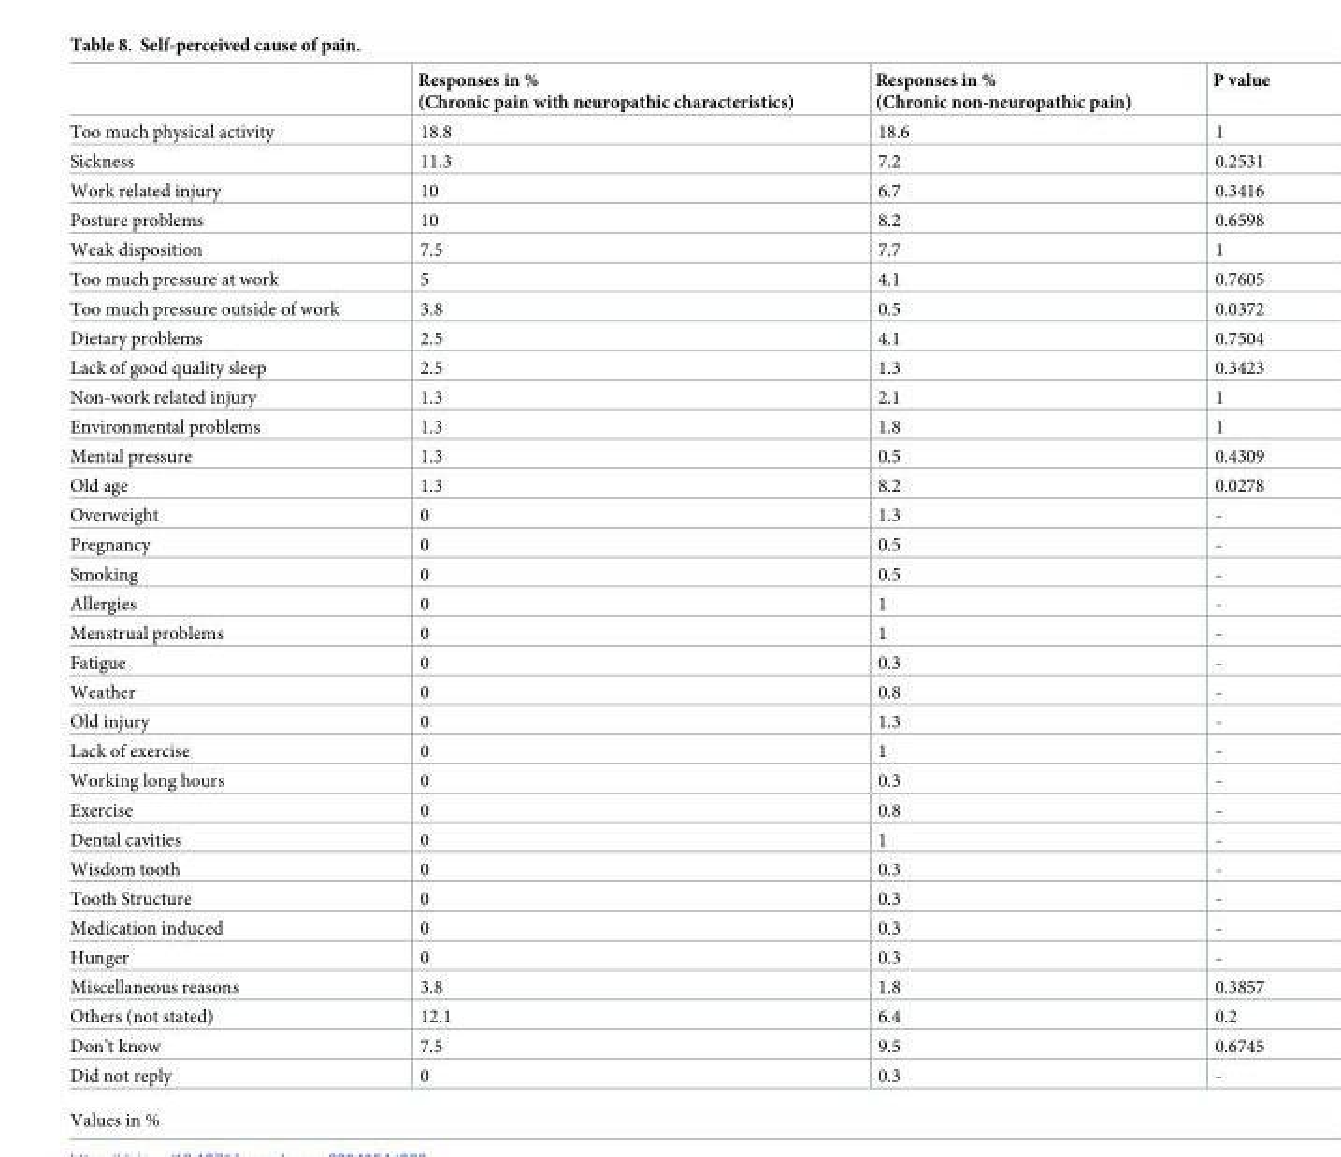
<table><thead><tr><td></td><td>Responses in % (Chronic pain with neuropathic characteristics)</td><td>Responses in % (Chronic non-neuropathic pain)</td><td>P value</td></tr></thead><tbody><tr><td>Too much physical activity</td><td>18.8</td><td>18.6</td><td>1</td></tr><tr><td>Sickness</td><td>11.3</td><td>7.2</td><td>0.2531</td></tr><tr><td>Work related injury</td><td>10</td><td>6.7</td><td>0.3416</td></tr><tr><td>Posture problems</td><td>10</td><td>8.2</td><td>0.6598</td></tr><tr><td>Weak disposition</td><td>7.5</td><td>7.7</td><td>1</td></tr><tr><td>Too much pressure at work</td><td>5</td><td>4.1</td><td>0.7605</td></tr><tr><td>Too much pressure outside of work</td><td>3.8</td><td>0.5</td><td>0.0372</td></tr><tr><td>Dietary problems</td><td>2.5</td><td>4.1</td><td>0.7504</td></tr><tr><td>Lack of good quality sleep</td><td>2.5</td><td>1.3</td><td>0.3423</td></tr><tr><td>Non-work related injury</td><td>1.3</td><td>2.1</td><td>1</td></tr><tr><td>Environmental problems</td><td>1.3</td><td>1.8</td><td>1</td></tr><tr><td>Mental pressure</td><td>1.3</td><td>0.5</td><td>0.4309</td></tr><tr><td>Old age</td><td>1.3</td><td>8.2</td><td>0.0278</td></tr><tr><td>Overweight</td><td>0</td><td>1.3</td><td>-</td></tr><tr><td>Pregnancy</td><td>0</td><td>0.5</td><td>-</td></tr><tr><td>Smoking</td><td>0</td><td>0.5</td><td>-</td></tr><tr><td>Allergies</td><td>0</td><td>1</td><td>-</td></tr><tr><td>Menstrual problems</td><td>0</td><td>1</td><td>-</td></tr><tr><td>Fatigue</td><td>0</td><td>0.3</td><td>-</td></tr><tr><td>Weather</td><td>0</td><td>0.8</td><td>-</td></tr><tr><td>Old injury</td><td>0</td><td>1.3</td><td>-</td></tr><tr><td>Lack of exercise</td><td>0</td><td>1</td><td>-</td></tr><tr><td>Working long hours</td><td>0</td><td>0.3</td><td>-</td></tr><tr><td>Exercise</td><td>0</td><td>0.8</td><td>-</td></tr><tr><td>Dental cavities</td><td>0</td><td>1</td><td>-</td></tr><tr><td>Wisdom tooth</td><td>0</td><td>0.3</td><td>-</td></tr><tr><td>Tooth Structure</td><td>0</td><td>0.3</td><td>-</td></tr><tr><td>Medication induced</td><td>0</td><td>0.3</td><td>-</td></tr><tr><td>Hunger</td><td>0</td><td>0.3</td><td>-</td></tr><tr><td>Miscellaneous reasons</td><td>3.8</td><td>1.8</td><td>0.3857</td></tr><tr><td>Others (not stated)</td><td>12.1</td><td>6.4</td><td>0.2</td></tr><tr><td>Don’t know</td><td>7.5</td><td>9.5</td><td>0.6745</td></tr><tr><td>Did not reply</td><td>0</td><td>0.3</td><td>-</td></tr></tbody></table>